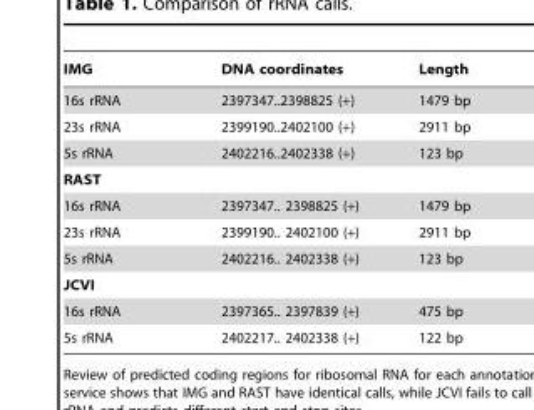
<table><thead><tr><td>IMG</td><td>DNA coordinates</td><td>Length</td></tr></thead><tbody><tr><td>16s rRNA</td><td>2397347..2398825 (+)</td><td>1479 bp</td></tr><tr><td>23s rRNA</td><td>2399190..2402100 (+)</td><td>2911 bp</td></tr><tr><td>5s rRNA</td><td>2402216..2402338 (+)</td><td>123 bp</td></tr><tr><td colspan="3">RAST</td></tr><tr><td>16s rRNA</td><td>2397347.. 2398825 (+)</td><td>1479 bp</td></tr><tr><td>23s rRNA</td><td>2399190.. 2402100 (+)</td><td>2911 bp</td></tr><tr><td>5s rRNA</td><td>2402216.. 2402338 (+)</td><td>123 bp</td></tr><tr><td colspan="3">JCVI</td></tr><tr><td>16s rRNA</td><td>2397365.. 2397839 (+)</td><td>475 bp</td></tr><tr><td>5s rRNA</td><td>2402217.. 2402338 (+)</td><td>122 bp</td></tr></tbody></table>